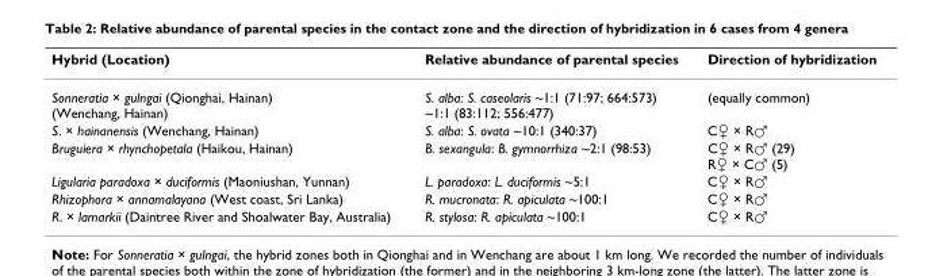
<table><thead><tr><td>Hybrid (Location)</td><td>Relative abundance of parental species</td><td>Direction of hybridization</td></tr></thead><tbody><tr><td>Sonneratia × gulngai (Qionghai, Hainan) (Wenchang, Hainan)</td><td>S. alba: S. caseolaris ~1:1 (71:97; 664:573) ~1:1 (83:112; 556:477)</td><td>(equally common)</td></tr><tr><td>S. × hainanensis (Wenchang, Hainan)</td><td>S. alba: S. ovata ~10:1 (340:37)</td><td>C♀ × R♂</td></tr><tr><td>Bruguiera × rhynchopetala (Haikou, Hainan)</td><td>B. sexangula: B. gymnorrhiza ~2:1 (98:53)</td><td>C♀ × R♂ (29) R♀ × C♂ (5)</td></tr><tr><td>Ligularia paradoxa × duciformis (Maoniushan, Yunnan)</td><td>L. paradoxa: L. duciformis ~5:1</td><td>C♀ × R♂</td></tr><tr><td>Rhizophora × annamalayana (West coast, Sri Lanka)</td><td>R. mucronata: R. apiculata ~100:1</td><td>C♀ × R♂</td></tr><tr><td>R. × lamarkii (Daintree River and Shoalwater Bay, Australia)</td><td>R. stylosa: R. apiculata ~100:1</td><td>C♀ × R♂</td></tr></tbody></table>